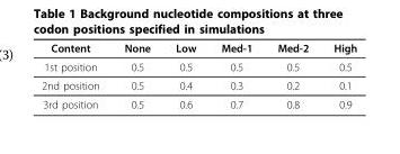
<table><thead><tr><td>Content</td><td>None</td><td>Low</td><td>Med-1</td><td>Med-2</td><td>High</td></tr></thead><tbody><tr><td>1st position</td><td>0.5</td><td>0.5</td><td>0.5</td><td>0.5</td><td>0.5</td></tr><tr><td>2nd position</td><td>0.5</td><td>0.4</td><td>0.3</td><td>0.2</td><td>0.1</td></tr><tr><td>3rd position</td><td>0.5</td><td>0.6</td><td>0.7</td><td>0.8</td><td>0.9</td></tr></tbody></table>